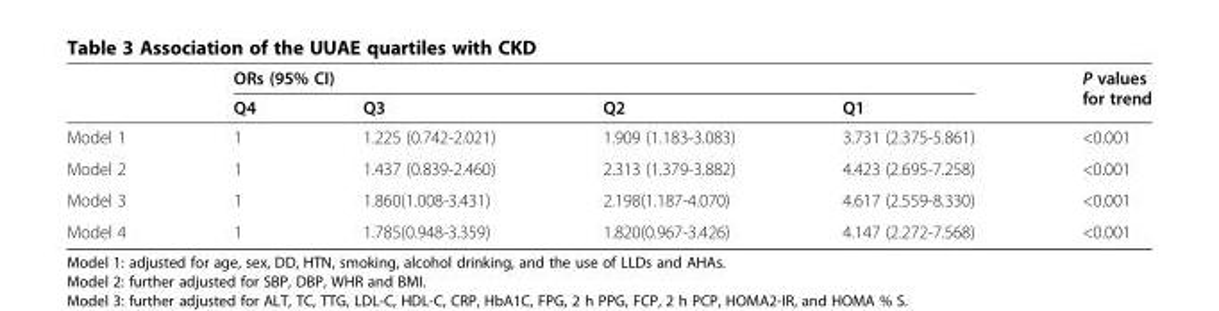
<table><thead><tr><td rowspan="2"></td><td colspan="4">ORs (95% CI)</td><td rowspan="2">P values for trend</td></tr><tr><td>Q4</td><td>Q3</td><td>Q2</td><td>Q1</td></tr></thead><tbody><tr><td>Model 1</td><td>1</td><td>1.225 (0.742-2.021)</td><td>1.909 (1.183-3.083)</td><td>3.731 (2.375-5.861)</td><td>&lt;0.001</td></tr><tr><td>Model 2</td><td>1</td><td>1.437 (0.839-2.460)</td><td>2.313 (1.379-3.882)</td><td>4.423 (2.695-7.258)</td><td>&lt;0.001</td></tr><tr><td>Model 3</td><td>1</td><td>1.860(1.008-3.431)</td><td>2.198(1.187-4.070)</td><td>4.617 (2.559-8.330)</td><td>&lt;0.001</td></tr><tr><td>Model 4</td><td>1</td><td>1.785(0.948-3.359)</td><td>1.820(0.967-3.426)</td><td>4.147 (2.272-7.568)</td><td>&lt;0.001</td></tr></tbody></table>